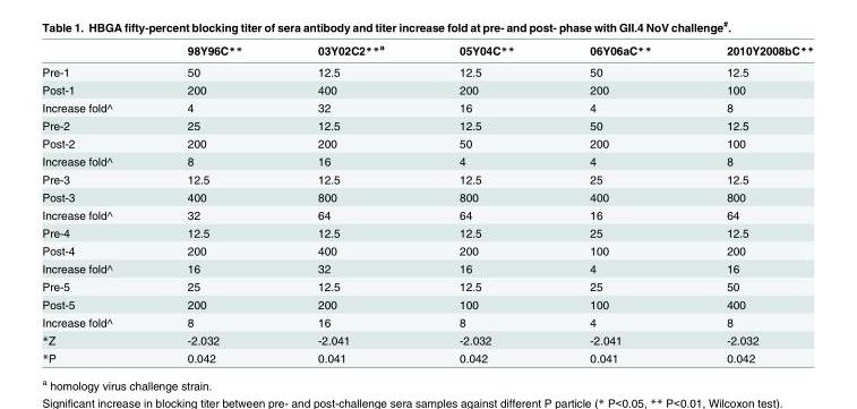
<table><thead><tr><td></td><td>98Y96C**</td><td>03Y02C2**<sup>a</sup></td><td>05Y04C**</td><td>06Y06aC**</td><td>2010Y2008bC**</td></tr></thead><tbody><tr><td>Pre-1</td><td>50</td><td>12.5</td><td>12.5</td><td>50</td><td>12.5</td></tr><tr><td>Post-1</td><td>200</td><td>400</td><td>200</td><td>200</td><td>100</td></tr><tr><td>Increase fold^</td><td>4</td><td>32</td><td>16</td><td>4</td><td>8</td></tr><tr><td>Pre-2</td><td>25</td><td>12.5</td><td>12.5</td><td>50</td><td>12.5</td></tr><tr><td>Post-2</td><td>200</td><td>200</td><td>50</td><td>200</td><td>100</td></tr><tr><td>Increase fold^</td><td>8</td><td>16</td><td>4</td><td>4</td><td>8</td></tr><tr><td>Pre-3</td><td>12.5</td><td>12.5</td><td>12.5</td><td>25</td><td>12.5</td></tr><tr><td>Post-3</td><td>400</td><td>800</td><td>800</td><td>400</td><td>800</td></tr><tr><td>Increase fold^</td><td>32</td><td>64</td><td>64</td><td>16</td><td>64</td></tr><tr><td>Pre-4</td><td>12.5</td><td>12.5</td><td>12.5</td><td>25</td><td>12.5</td></tr><tr><td>Post-4</td><td>200</td><td>400</td><td>200</td><td>100</td><td>200</td></tr><tr><td>Increase fold^</td><td>16</td><td>32</td><td>16</td><td>4</td><td>16</td></tr><tr><td>Pre-5</td><td>25</td><td>12.5</td><td>12.5</td><td>25</td><td>50</td></tr><tr><td>Post-5</td><td>200</td><td>200</td><td>100</td><td>100</td><td>400</td></tr><tr><td>Increase fold^</td><td>8</td><td>16</td><td>8</td><td>4</td><td>8</td></tr><tr><td>*Z</td><td>-2.032</td><td>-2.041</td><td>-2.032</td><td>-2.041</td><td>-2.032</td></tr><tr><td>*P</td><td>0.042</td><td>0.041</td><td>0.042</td><td>0.041</td><td>0.042</td></tr></tbody></table>